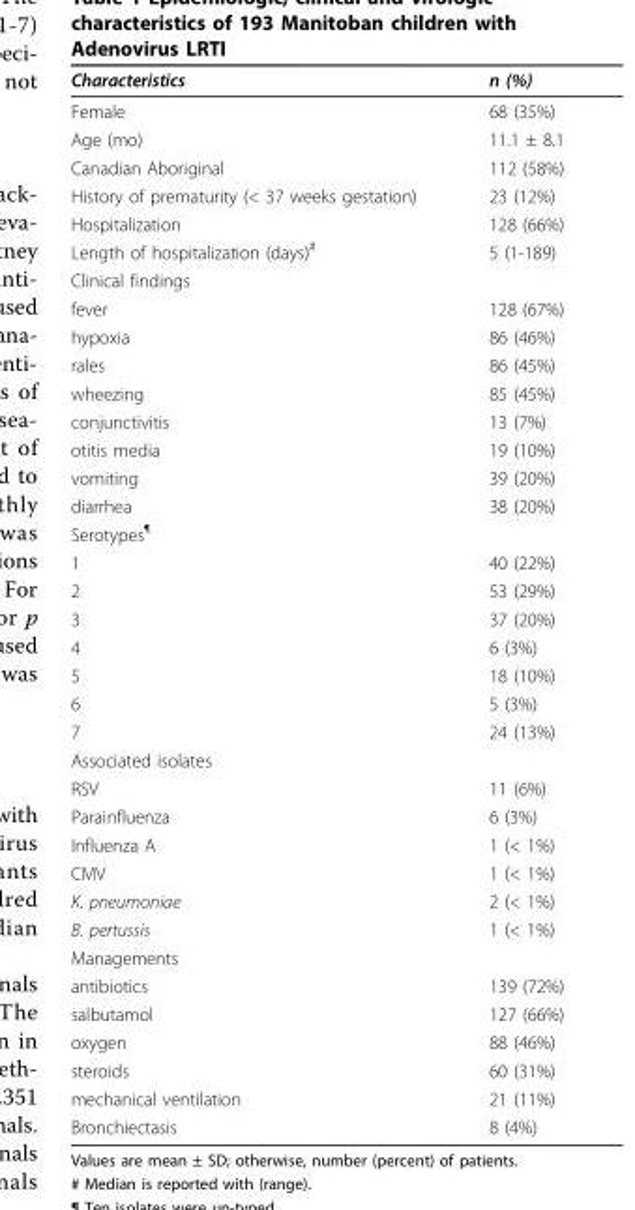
<table><thead><tr><td>Characteristics</td><td>n (%)</td></tr></thead><tbody><tr><td>Female</td><td>68 (35%)</td></tr><tr><td>Age (mo)</td><td>11.1 ± 8.1</td></tr><tr><td>Canadian Aboriginal</td><td>112 (58%)</td></tr><tr><td>History of prematurity (&lt; 37 weeks gestation)</td><td>23 (12%)</td></tr><tr><td>Hospitalization</td><td>128 (66%)</td></tr><tr><td>Length of hospitalization (days)<sup>#</sup></td><td>5 (1-189)</td></tr><tr><td colspan="2">Clinical findings</td></tr><tr><td>fever</td><td>128 (67%)</td></tr><tr><td>hypoxia</td><td>86 (46%)</td></tr><tr><td>rales</td><td>86 (45%)</td></tr><tr><td>wheezing</td><td>85 (45%)</td></tr><tr><td>conjunctivitis</td><td>13 (7%)</td></tr><tr><td>otitis media</td><td>19 (10%)</td></tr><tr><td>vomiting</td><td>39 (20%)</td></tr><tr><td>diarrhea</td><td>38 (20%)</td></tr><tr><td colspan="2">Serotypes<sup>¶</sup></td></tr><tr><td>1</td><td>40 (22%)</td></tr><tr><td>2</td><td>53 (29%)</td></tr><tr><td>3</td><td>37 (20%)</td></tr><tr><td>4</td><td>6 (3%)</td></tr><tr><td>5</td><td>18 (10%)</td></tr><tr><td>6</td><td>5 (3%)</td></tr><tr><td>7</td><td>24 (13%)</td></tr><tr><td colspan="2">Associated isolates</td></tr><tr><td>RSV</td><td>11 (6%)</td></tr><tr><td>Parainfluenza</td><td>6 (3%)</td></tr><tr><td>Influenza A</td><td>1 (&lt; 1%)</td></tr><tr><td>CMV</td><td>1 (&lt; 1%)</td></tr><tr><td>K. pneumoniae</td><td>2 (&lt; 1%)</td></tr><tr><td>B. pertussis</td><td>1 (&lt; 1%)</td></tr><tr><td colspan="2">Managements</td></tr><tr><td>antibiotics</td><td>139 (72%)</td></tr><tr><td>salbutamol</td><td>127 (66%)</td></tr><tr><td>oxygen</td><td>88 (46%)</td></tr><tr><td>steroids</td><td>60 (31%)</td></tr><tr><td>mechanical ventilation</td><td>21 (11%)</td></tr><tr><td>Bronchiectasis</td><td>8 (4%)</td></tr></tbody></table>